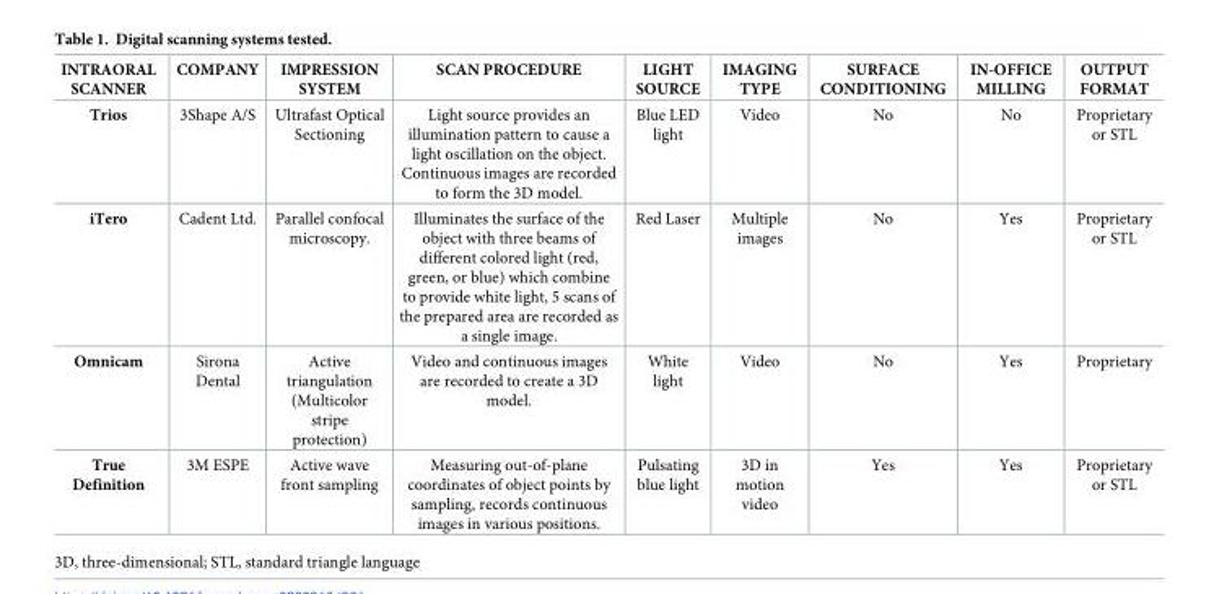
<table><thead><tr><td>INTRAORAL SCANNER</td><td>COMPANY</td><td>IMPRESSION SYSTEM</td><td>SCAN PROCEDURE</td><td>LIGHT SOURCE</td><td>IMAGING TYPE</td><td>SURFACE CONDITIONING</td><td>IN-OFFICE MILLING</td><td>OUTPUT FORMAT</td></tr></thead><tbody><tr><td>Trios</td><td>3Shape A/S</td><td>Ultrafast Optical Sectioning</td><td>Light source provides an illumination pattern to cause a light oscillation on the object. Continuous images are recorded to form the 3D model.</td><td>Blue LED light</td><td>Video</td><td>No</td><td>No</td><td>Proprietary or STL</td></tr><tr><td>iTero</td><td>Cadent Ltd.</td><td>Parallel confocal microscopy.</td><td>Illuminates the surface of the object with three beams of different colored light (red, green, or blue) which combine to provide white light, 5 scans of the prepared area are recorded as a single image.</td><td>Red Laser</td><td>Multiple images</td><td>No</td><td>Yes</td><td>Proprietary or STL</td></tr><tr><td>Omnicam</td><td>Sirona Dental</td><td>Active triangulation (Multicolor stripe protection)</td><td>Video and continuous images are recorded to create a 3D model.</td><td>White light</td><td>Video</td><td>No</td><td>Yes</td><td>Proprietary</td></tr><tr><td>True Definition</td><td>3M ESPE</td><td>Active wave front sampling</td><td>Measuring out-of-plane coordinates of object points by sampling, records continuous images in various positions.</td><td>Pulsating blue light</td><td>3D in motion video</td><td>Yes</td><td>Yes</td><td>Proprietary or STL</td></tr></tbody></table>